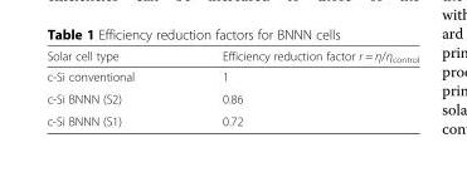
<table><thead><tr><td>Solar cell type</td><td>Efficiency reduction factor r = η/η<sub>control</sub></td></tr></thead><tbody><tr><td>c-Si conventional</td><td>1</td></tr><tr><td>c-Si BNNN (S2)</td><td>0.86</td></tr><tr><td>c-Si BNNN (S1)</td><td>0.72</td></tr></tbody></table>